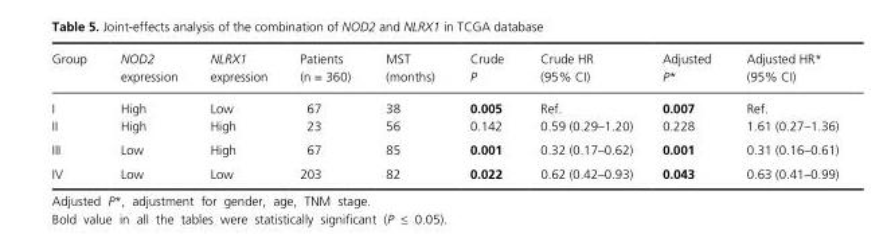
<table><thead><tr><td>Group</td><td>NOD2 expression</td><td>NLRX1 expression</td><td>Patients (n = 360)</td><td>MST (months)</td><td>Crude P</td><td>Crude HR (95% CI)</td><td>Adjusted P*</td><td>Adjusted HR* (95% CI)</td></tr></thead><tbody><tr><td>I</td><td>High</td><td>Low</td><td>67</td><td>38</td><td>0.005</td><td>Ref.</td><td>0.007</td><td>Ref.</td></tr><tr><td>II</td><td>High</td><td>High</td><td>23</td><td>56</td><td>0.142</td><td>0.59 (0.29–1.20)</td><td>0.228</td><td>1.61 (0.27–1.36)</td></tr><tr><td>III</td><td>Low</td><td>High</td><td>67</td><td>85</td><td>0.001</td><td>0.32 (0.17–0.62)</td><td>0.001</td><td>0.31 (0.16–0.61)</td></tr><tr><td>IV</td><td>Low</td><td>Low</td><td>203</td><td>82</td><td>0.022</td><td>0.62 (0.42–0.93)</td><td>0.043</td><td>0.63 (0.41–0.99)</td></tr></tbody></table>